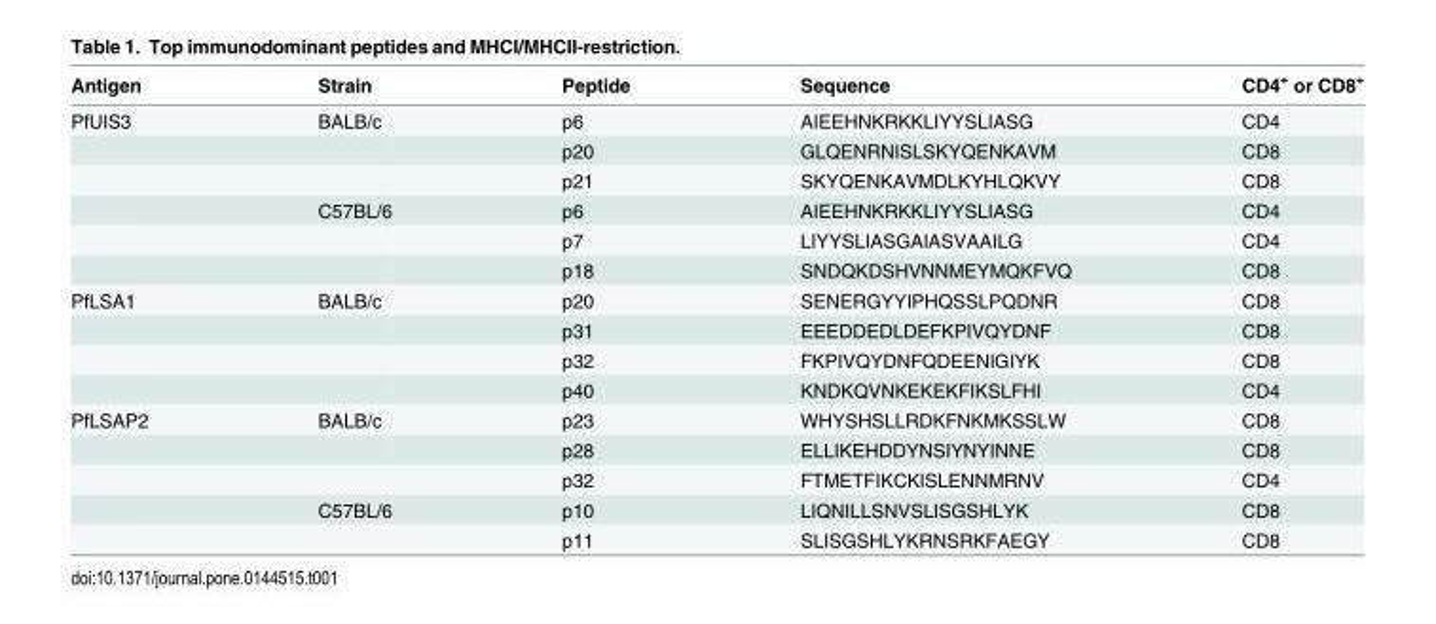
<table><thead><tr><td>Antigen</td><td>Strain</td><td>Peptide</td><td>Sequence</td><td>CD4<sup>+</sup> or CD8<sup>+</sup></td></tr></thead><tbody><tr><td rowspan="6">PfUIS3</td><td>BALB/c</td><td>p6</td><td>AIEEHNKRKKLIYYSLIASG</td><td>CD4</td></tr><tr><td></td><td>p20</td><td>GLQENRNISLSKYQENKAVM</td><td>CD8</td></tr><tr><td></td><td>p21</td><td>SKYQENKAVMDLKYHLQKVY</td><td>CD8</td></tr><tr><td>C57BL/6</td><td>p6</td><td>AIEEHNKRKKLIYYSLIASG</td><td>CD4</td></tr><tr><td></td><td>p7</td><td>LIYYSLIASGAIASVAAILG</td><td>CD4</td></tr><tr><td></td><td>p18</td><td>SNDQKDSHVNNMEYMQKFVQ</td><td>CD8</td></tr><tr><td rowspan="4">PfLSA1</td><td>BALB/c</td><td>p20</td><td>SENERGYYIPHQSSLPQDNR</td><td>CD8</td></tr><tr><td></td><td>p31</td><td>EEEDDEDLDEFKPIVQYDNF</td><td>CD8</td></tr><tr><td></td><td>p32</td><td>FKPIVQYDNFQDEENIGIYK</td><td>CD8</td></tr><tr><td></td><td>p40</td><td>KNDKQVNKEKEKFIKSLFHI</td><td>CD4</td></tr><tr><td rowspan="5">PfLSAP2</td><td>BALB/c</td><td>p23</td><td>WHYSHSLLRDKFNKMKSSLW</td><td>CD8</td></tr><tr><td></td><td>p28</td><td>ELLIKEHDDYNSIYNYINNE</td><td>CD8</td></tr><tr><td></td><td>p32</td><td>FTMETFIKCKISLENNMRNV</td><td>CD4</td></tr><tr><td>C57BL/6</td><td>p10</td><td>LIQNILLSNVSLISGSHLYK</td><td>CD8</td></tr><tr><td></td><td>p11</td><td>SLISGSHLYKRNSRKFAEGY</td><td>CD8</td></tr></tbody></table>